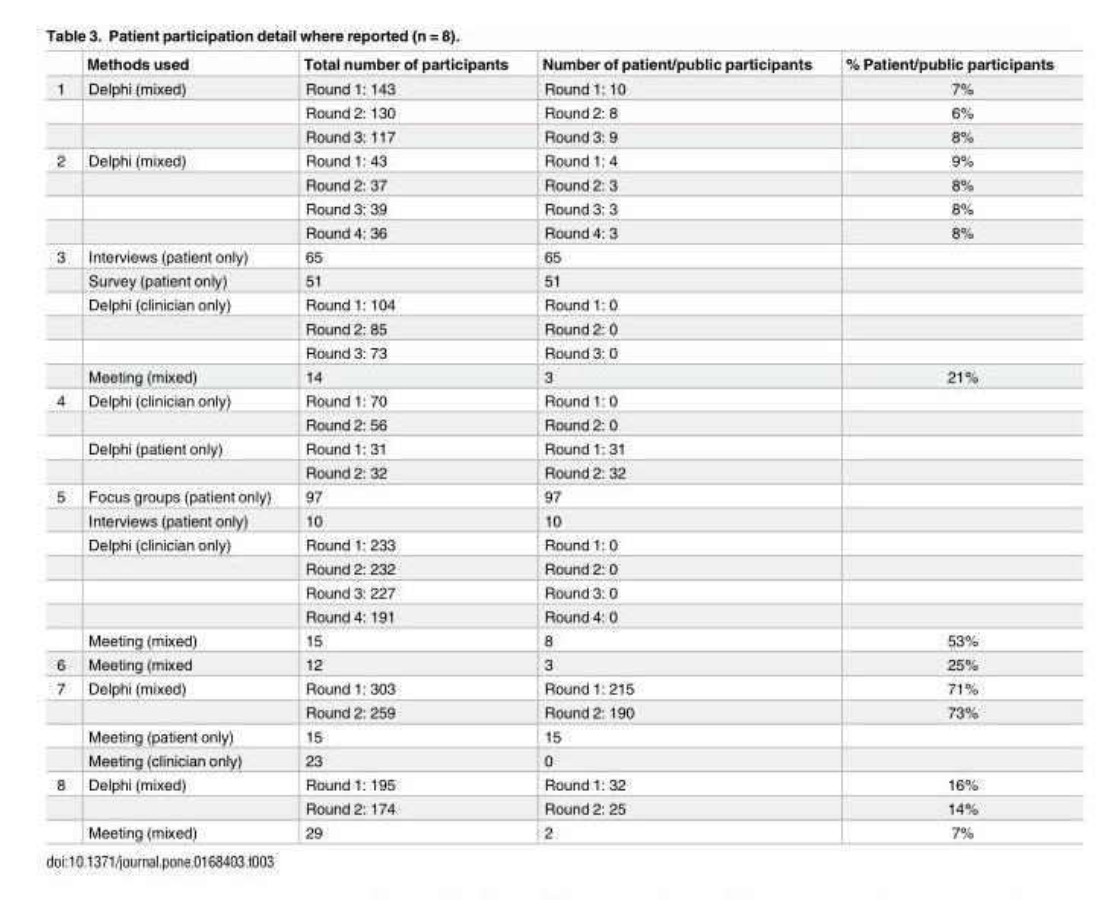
<table><thead><tr><td></td><td>Methods used</td><td>Total number of participants</td><td>Number of patient/public participants</td><td>% Patient/public participants</td></tr></thead><tbody><tr><td rowspan="3">1</td><td>Delphi (mixed)</td><td>Round 1: 143</td><td>Round 1: 10</td><td>7%</td></tr><tr><td></td><td>Round 2: 130</td><td>Round 2: 8</td><td>6%</td></tr><tr><td></td><td>Round 3: 117</td><td>Round 3: 9</td><td>8%</td></tr><tr><td rowspan="4">2</td><td>Delphi (mixed)</td><td>Round 1: 43</td><td>Round 1: 4</td><td>9%</td></tr><tr><td></td><td>Round 2: 37</td><td>Round 2: 3</td><td>8%</td></tr><tr><td></td><td>Round 3: 39</td><td>Round 3: 3</td><td>8%</td></tr><tr><td></td><td>Round 4: 36</td><td>Round 4: 3</td><td>8%</td></tr><tr><td rowspan="6">3</td><td>Interviews (patient only)</td><td>65</td><td>65</td><td></td></tr><tr><td>Survey (patient only)</td><td>51</td><td>51</td><td></td></tr><tr><td>Delphi (clinician only)</td><td>Round 1: 104</td><td>Round 1: 0</td><td></td></tr><tr><td></td><td>Round 2: 85</td><td>Round 2: 0</td><td></td></tr><tr><td></td><td>Round 3: 73</td><td>Round 3: 0</td><td></td></tr><tr><td>Meeting (mixed)</td><td>14</td><td>3</td><td>21%</td></tr><tr><td rowspan="4">4</td><td>Delphi (clinician only)</td><td>Round 1: 70</td><td>Round 1: 0</td><td></td></tr><tr><td></td><td>Round 2: 56</td><td>Round 2: 0</td><td></td></tr><tr><td>Delphi (patient only)</td><td>Round 1: 31</td><td>Round 1: 31</td><td></td></tr><tr><td></td><td>Round 2: 32</td><td>Round 2: 32</td><td></td></tr><tr><td rowspan="7">5</td><td>Focus groups (patient only)</td><td>97</td><td>97</td><td></td></tr><tr><td>Interviews (patient only)</td><td>10</td><td>10</td><td></td></tr><tr><td>Delphi (clinician only)</td><td>Round 1: 233</td><td>Round 1: 0</td><td></td></tr><tr><td></td><td>Round 2: 232</td><td>Round 2: 0</td><td></td></tr><tr><td></td><td>Round 3: 227</td><td>Round 3: 0</td><td></td></tr><tr><td></td><td>Round 4: 191</td><td>Round 4: 0</td><td></td></tr><tr><td>Meeting (mixed)</td><td>15</td><td>8</td><td>53%</td></tr><tr><td>6</td><td>Meeting (mixed</td><td>12</td><td>3</td><td>25%</td></tr><tr><td rowspan="4">7</td><td>Delphi (mixed)</td><td>Round 1: 303</td><td>Round 1: 215</td><td>71%</td></tr><tr><td></td><td>Round 2: 259</td><td>Round 2: 190</td><td>73%</td></tr><tr><td>Meeting (patient only)</td><td>15</td><td>15</td><td></td></tr><tr><td>Meeting (clinician only)</td><td>23</td><td>0</td><td></td></tr><tr><td rowspan="3">8</td><td>Delphi (mixed)</td><td>Round 1: 195</td><td>Round 1: 32</td><td>16%</td></tr><tr><td></td><td>Round 2: 174</td><td>Round 2: 25</td><td>14%</td></tr><tr><td>Meeting (mixed)</td><td>29</td><td>2</td><td>7%</td></tr></tbody></table>